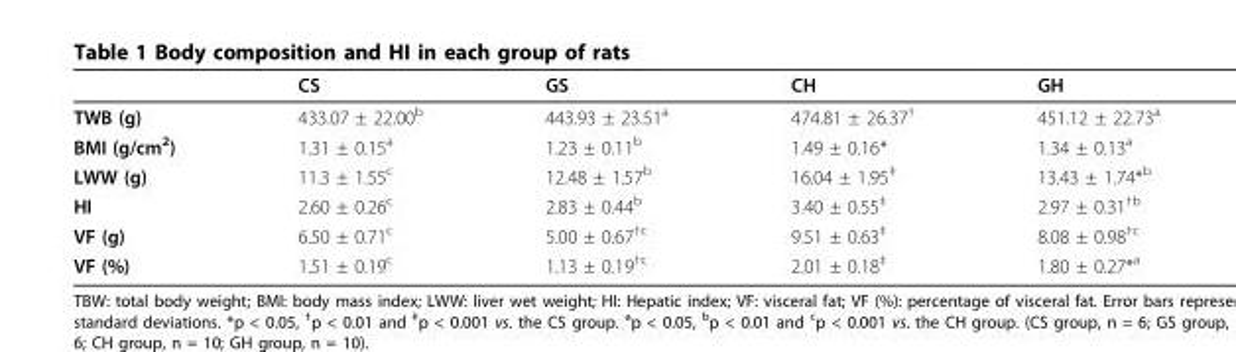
<table><thead><tr><td></td><td>CS</td><td>GS</td><td>CH</td><td>GH</td></tr></thead><tbody><tr><td>TWB (g)</td><td>433.07 ± 22.00<sup>b</sup></td><td>443.93 ± 23.51<sup>a</sup></td><td>474.81 ± 26.37<sup>†</sup></td><td>451.12 ± 22.73<sup>a</sup></td></tr><tr><td>BMI (g/cm<sup>2</sup>)</td><td>1.31 ± 0.15<sup>a</sup></td><td>1.23 ± 0.11<sup>b</sup></td><td>1.49 ± 0.16*</td><td>1.34 ± 0.13<sup>a</sup></td></tr><tr><td>LWW (g)</td><td>11.3 ± 1.55<sup>c</sup></td><td>12.48 ± 1.57<sup>b</sup></td><td>16.04 ± 1.95<sup>‡</sup></td><td>13.43 ± 1.74*<sup>b</sup></td></tr><tr><td>HI</td><td>2.60 ± 0.26<sup>c</sup></td><td>2.83 ± 0.44<sup>b</sup></td><td>3.40 ± 0.55<sup>‡</sup></td><td>2.97 ± 0.31<sup>†b</sup></td></tr><tr><td>VF (g)</td><td>6.50 ± 0.71<sup>c</sup></td><td>5.00 ± 0.67<sup>†c</sup></td><td>9.51 ± 0.63<sup>‡</sup></td><td>8.08 ± 0.98<sup>†c</sup></td></tr><tr><td>VF (%)</td><td>1.51 ± 0.19<sup>c</sup></td><td>1.13 ± 0.19<sup>†c</sup></td><td>2.01 ± 0.18<sup>‡</sup></td><td>1.80 ± 0.27*<sup>a</sup></td></tr></tbody></table>